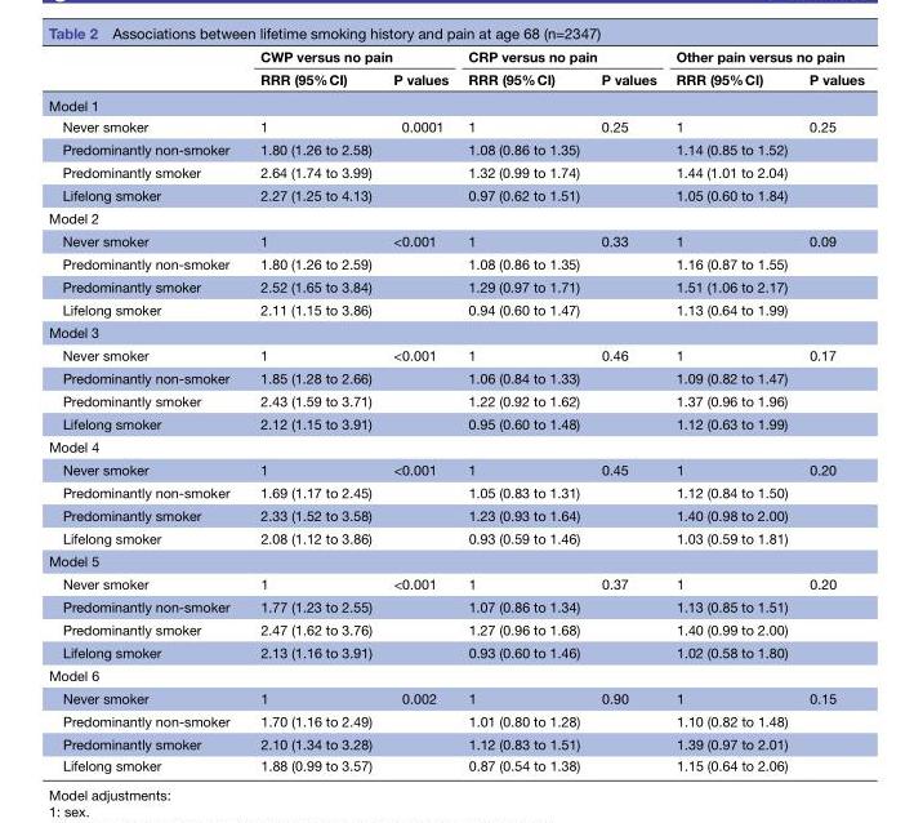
<table><thead><tr><td rowspan="2"></td><td colspan="2">CWP versus no pain</td><td colspan="2">CRP versus no pain</td><td colspan="2">Other pain versus no pain</td></tr><tr><td>RRR (95% CI)</td><td>P values</td><td>RRR (95% CI)</td><td>P values</td><td>RRR (95% CI)</td><td>P values</td></tr></thead><tbody><tr><td colspan="7">Model 1</td></tr><tr><td>Never smoker</td><td>1</td><td>0.0001</td><td>1</td><td>0.25</td><td>1</td><td>0.25</td></tr><tr><td>Predominantly non-smoker</td><td>1.80 (1.26 to 2.58)</td><td></td><td>1.08 (0.86 to 1.35)</td><td></td><td>1.14 (0.85 to 1.52)</td><td></td></tr><tr><td>Predominantly smoker</td><td>2.64 (1.74 to 3.99)</td><td></td><td>1.32 (0.99 to 1.74)</td><td></td><td>1.44 (1.01 to 2.04)</td><td></td></tr><tr><td>Lifelong smoker</td><td>2.27 (1.25 to 4.13)</td><td></td><td>0.97 (0.62 to 1.51)</td><td></td><td>1.05 (0.60 to 1.84)</td><td></td></tr><tr><td colspan="7">Model 2</td></tr><tr><td>Never smoker</td><td>1</td><td>&lt;0.001</td><td>1</td><td>0.33</td><td>1</td><td>0.09</td></tr><tr><td>Predominantly non-smoker</td><td>1.80 (1.26 to 2.59)</td><td></td><td>1.08 (0.86 to 1.35)</td><td></td><td>1.16 (0.87 to 1.55)</td><td></td></tr><tr><td>Predominantly smoker</td><td>2.52 (1.65 to 3.84)</td><td></td><td>1.29 (0.97 to 1.71)</td><td></td><td>1.51 (1.06 to 2.17)</td><td></td></tr><tr><td>Lifelong smoker</td><td>2.11 (1.15 to 3.86)</td><td></td><td>0.94 (0.60 to 1.47)</td><td></td><td>1.13 (0.64 to 1.99)</td><td></td></tr><tr><td colspan="7">Model 3</td></tr><tr><td>Never smoker</td><td>1</td><td>&lt;0.001</td><td>1</td><td>0.46</td><td>1</td><td>0.17</td></tr><tr><td>Predominantly non-smoker</td><td>1.85 (1.28 to 2.66)</td><td></td><td>1.06 (0.84 to 1.33)</td><td></td><td>1.09 (0.82 to 1.47)</td><td></td></tr><tr><td>Predominantly smoker</td><td>2.43 (1.59 to 3.71)</td><td></td><td>1.22 (0.92 to 1.62)</td><td></td><td>1.37 (0.96 to 1.96)</td><td></td></tr><tr><td>Lifelong smoker</td><td>2.12 (1.15 to 3.91)</td><td></td><td>0.95 (0.60 to 1.48)</td><td></td><td>1.12 (0.63 to 1.99)</td><td></td></tr><tr><td colspan="7">Model 4</td></tr><tr><td>Never smoker</td><td>1</td><td>&lt;0.001</td><td>1</td><td>0.45</td><td>1</td><td>0.20</td></tr><tr><td>Predominantly non-smoker</td><td>1.69 (1.17 to 2.45)</td><td></td><td>1.05 (0.83 to 1.31)</td><td></td><td>1.12 (0.84 to 1.50)</td><td></td></tr><tr><td>Predominantly smoker</td><td>2.33 (1.52 to 3.58)</td><td></td><td>1.23 (0.93 to 1.64)</td><td></td><td>1.40 (0.98 to 2.00)</td><td></td></tr><tr><td>Lifelong smoker</td><td>2.08 (1.12 to 3.86)</td><td></td><td>0.93 (0.59 to 1.46)</td><td></td><td>1.03 (0.59 to 1.81)</td><td></td></tr><tr><td colspan="7">Model 5</td></tr><tr><td>Never smoker</td><td>1</td><td>&lt;0.001</td><td>1</td><td>0.37</td><td>1</td><td>0.20</td></tr><tr><td>Predominantly non-smoker</td><td>1.77 (1.23 to 2.55)</td><td></td><td>1.07 (0.86 to 1.34)</td><td></td><td>1.13 (0.85 to 1.51)</td><td></td></tr><tr><td>Predominantly smoker</td><td>2.47 (1.62 to 3.76)</td><td></td><td>1.27 (0.96 to 1.68)</td><td></td><td>1.40 (0.99 to 2.00)</td><td></td></tr><tr><td>Lifelong smoker</td><td>2.13 (1.16 to 3.91)</td><td></td><td>0.93 (0.60 to 1.46)</td><td></td><td>1.02 (0.58 to 1.80)</td><td></td></tr><tr><td colspan="7">Model 6</td></tr><tr><td>Never smoker</td><td>1</td><td>0.002</td><td>1</td><td>0.90</td><td>1</td><td>0.15</td></tr><tr><td>Predominantly non-smoker</td><td>1.70 (1.16 to 2.49)</td><td></td><td>1.01 (0.80 to 1.28)</td><td></td><td>1.10 (0.82 to 1.48)</td><td></td></tr><tr><td>Predominantly smoker</td><td>2.10 (1.34 to 3.28)</td><td></td><td>1.12 (0.83 to 1.51)</td><td></td><td>1.39 (0.97 to 2.01)</td><td></td></tr><tr><td>Lifelong smoker</td><td>1.88 (0.99 to 3.57)</td><td></td><td>0.87 (0.54 to 1.38)</td><td></td><td>1.15 (0.64 to 2.06)</td><td></td></tr></tbody></table>